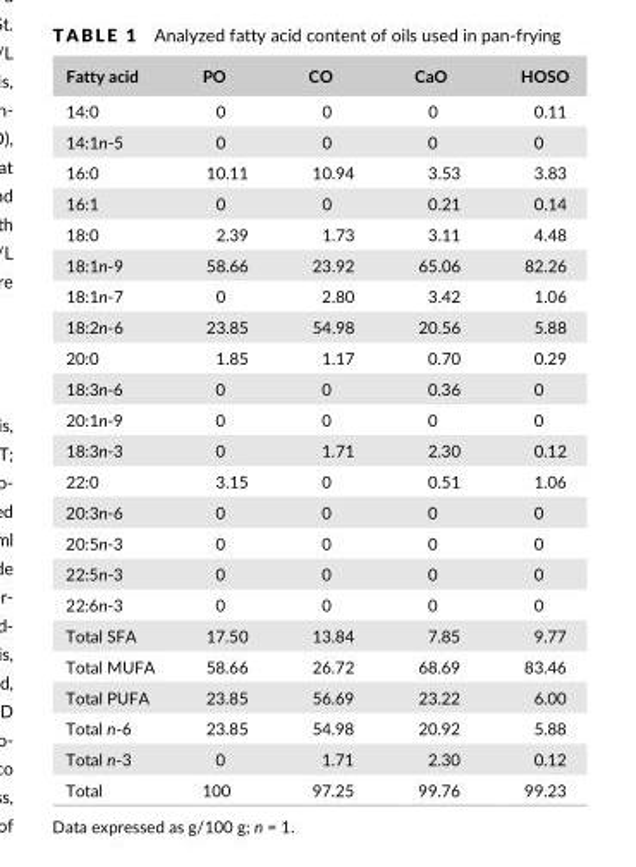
<table><thead><tr><td>Fatty acid</td><td>PO</td><td>CO</td><td>CaO</td><td>HOSO</td></tr></thead><tbody><tr><td>14:0</td><td>0</td><td>0</td><td>0</td><td>0.11</td></tr><tr><td>14:1n- 5</td><td>0</td><td>0</td><td>0</td><td>0</td></tr><tr><td>16:0</td><td>10.11</td><td>10.94</td><td>3.53</td><td>3.83</td></tr><tr><td>16:1</td><td>0</td><td>0</td><td>0.21</td><td>0.14</td></tr><tr><td>18:0</td><td>2.39</td><td>1.73</td><td>3.11</td><td>4.48</td></tr><tr><td>18:1n- 9</td><td>58.66</td><td>23.92</td><td>65.06</td><td>82.26</td></tr><tr><td>18:1n- 7</td><td>0</td><td>2.80</td><td>3.42</td><td>1.06</td></tr><tr><td>18:2n- 6</td><td>23.85</td><td>54.98</td><td>20.56</td><td>5.88</td></tr><tr><td>20:0</td><td>1.85</td><td>1.17</td><td>0.70</td><td>0.29</td></tr><tr><td>18:3n- 6</td><td>0</td><td>0</td><td>0.36</td><td>0</td></tr><tr><td>20:1n- 9</td><td>0</td><td>0</td><td>0</td><td>0</td></tr><tr><td>18:3n- 3</td><td>0</td><td>1.71</td><td>2.30</td><td>0.12</td></tr><tr><td>22:0</td><td>3.15</td><td>0</td><td>0.51</td><td>1.06</td></tr><tr><td>20:3n- 6</td><td>0</td><td>0</td><td>0</td><td>0</td></tr><tr><td>20:5n- 3</td><td>0</td><td>0</td><td>0</td><td>0</td></tr><tr><td>22:5n- 3</td><td>0</td><td>0</td><td>0</td><td>0</td></tr><tr><td>22:6n- 3</td><td>0</td><td>0</td><td>0</td><td>0</td></tr><tr><td>Total SFA</td><td>17.50</td><td>13.84</td><td>7.85</td><td>9.77</td></tr><tr><td>Total MUFA</td><td>58.66</td><td>26.72</td><td>68.69</td><td>83.46</td></tr><tr><td>Total PUFA</td><td>23.85</td><td>56.69</td><td>23.22</td><td>6.00</td></tr><tr><td>Total n- 6</td><td>23.85</td><td>54.98</td><td>20.92</td><td>5.88</td></tr><tr><td>Total n- 3</td><td>0</td><td>1.71</td><td>2.30</td><td>0.12</td></tr><tr><td>Total</td><td>100</td><td>97.25</td><td>99.76</td><td>99.23</td></tr></tbody></table>